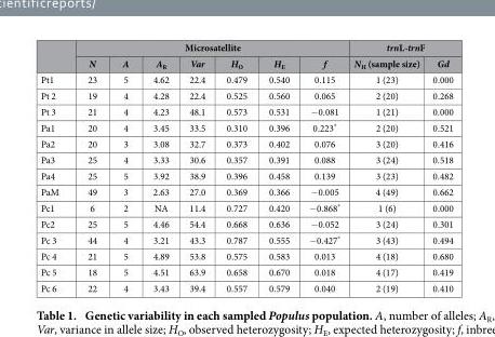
<table><thead><tr><td rowspan="2"></td><td colspan="7">Microsatellite</td><td colspan="2">trnL-trnF</td></tr><tr><td>N</td><td>A</td><td>A<sub>R</sub></td><td>Var</td><td>H<sub>O</sub></td><td>H<sub>E</sub></td><td>f</td><td>N<sub>H</sub> (sample size)</td><td>Gd</td></tr></thead><tbody><tr><td>Pt1</td><td>23</td><td>5</td><td>4.62</td><td>22.4</td><td>0.479</td><td>0.540</td><td>0.115</td><td>1 (23)</td><td>0.000</td></tr><tr><td>Pt 2</td><td>19</td><td>4</td><td>4.28</td><td>22.4</td><td>0.525</td><td>0.560</td><td>0.065</td><td>2 (20)</td><td>0.268</td></tr><tr><td>Pt 3</td><td>21</td><td>4</td><td>4.23</td><td>48.1</td><td>0.573</td><td>0.531</td><td>− 0.081</td><td>1 (21)</td><td>0.000</td></tr><tr><td>Pa1</td><td>20</td><td>4</td><td>3.45</td><td>33.5</td><td>0.310</td><td>0.396</td><td>0.223*</td><td>2 (20)</td><td>0.521</td></tr><tr><td>Pa2</td><td>20</td><td>3</td><td>3.08</td><td>32.7</td><td>0.373</td><td>0.402</td><td>0.076</td><td>3 (20)</td><td>0.416</td></tr><tr><td>Pa3</td><td>25</td><td>4</td><td>3.33</td><td>30.6</td><td>0.357</td><td>0.391</td><td>0.088</td><td>3 (24)</td><td>0.518</td></tr><tr><td>Pa4</td><td>25</td><td>5</td><td>3.92</td><td>38.9</td><td>0.396</td><td>0.458</td><td>0.139</td><td>3 (23)</td><td>0.482</td></tr><tr><td>PaM</td><td>49</td><td>3</td><td>2.63</td><td>27.0</td><td>0.369</td><td>0.366</td><td>− 0.005</td><td>4 (49)</td><td>0.662</td></tr><tr><td>Pc1</td><td>6</td><td>2</td><td>NA</td><td>11.4</td><td>0.727</td><td>0.420</td><td>− 0.868*</td><td>1 (6)</td><td>0.000</td></tr><tr><td>Pc2</td><td>25</td><td>5</td><td>4.46</td><td>54.4</td><td>0.668</td><td>0.636</td><td>− 0.052</td><td>3 (24)</td><td>0.301</td></tr><tr><td>Pc 3</td><td>44</td><td>4</td><td>3.21</td><td>43.3</td><td>0.787</td><td>0.555</td><td>− 0.427*</td><td>3 (43)</td><td>0.494</td></tr><tr><td>Pc 4</td><td>21</td><td>5</td><td>4.89</td><td>53.8</td><td>0.575</td><td>0.583</td><td>0.013</td><td>4 (18)</td><td>0.680</td></tr><tr><td>Pc 5</td><td>18</td><td>5</td><td>4.51</td><td>63.9</td><td>0.658</td><td>0.670</td><td>0.018</td><td>4 (17)</td><td>0.419</td></tr><tr><td>Pc 6</td><td>22</td><td>4</td><td>3.43</td><td>39.4</td><td>0.557</td><td>0.579</td><td>0.040</td><td>2 (19)</td><td>0.410</td></tr></tbody></table>